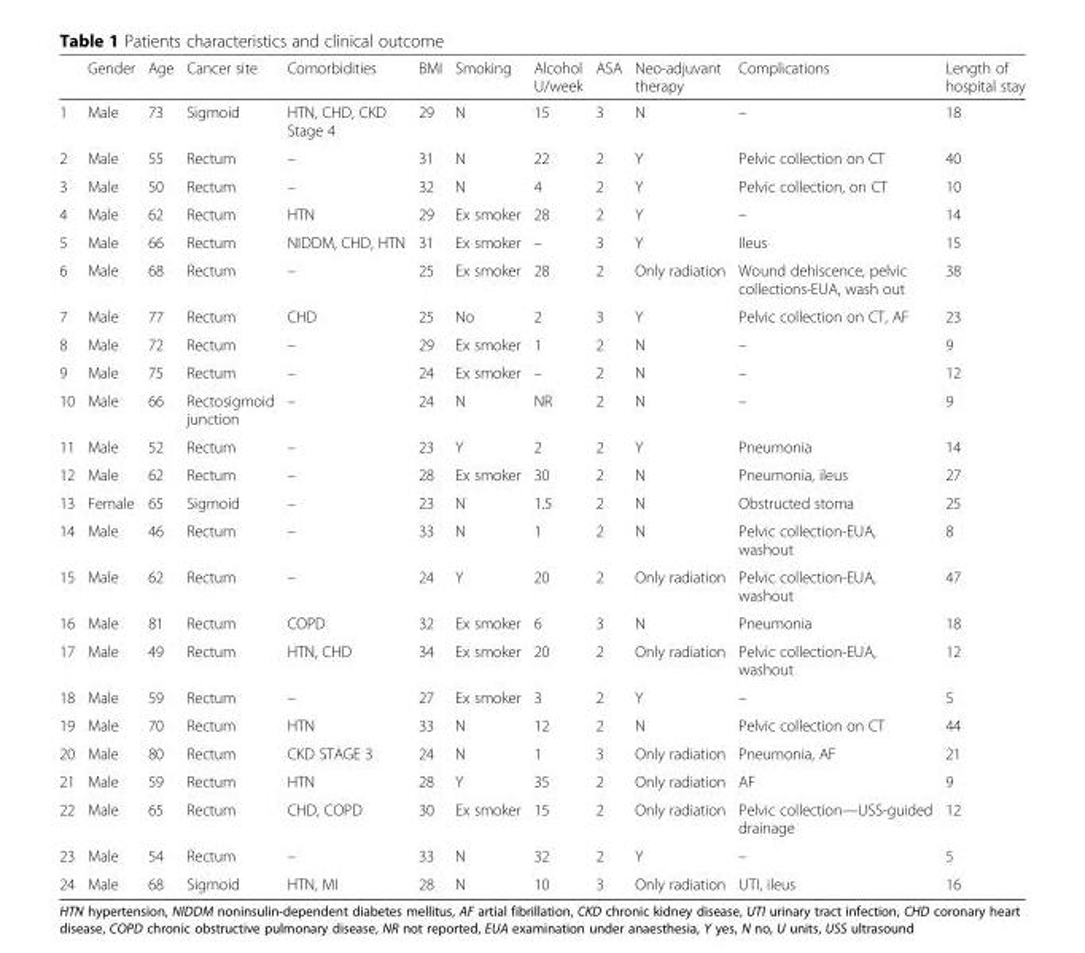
<table><thead><tr><td></td><td>Gender</td><td>Age</td><td>Cancer site</td><td>Comorbidities</td><td>BMI</td><td>Smoking</td><td>Alcohol U/week</td><td>ASA</td><td>Neo-adjuvant therapy</td><td>Complications</td><td>Length of hospital stay</td></tr></thead><tbody><tr><td>1</td><td>Male</td><td>73</td><td>Sigmoid</td><td>HTN, CHD, CKD Stage 4</td><td>29</td><td>N</td><td>15</td><td>3</td><td>N</td><td>–</td><td>18</td></tr><tr><td>2</td><td>Male</td><td>55</td><td>Rectum</td><td>–</td><td>31</td><td>N</td><td>22</td><td>2</td><td>Y</td><td>Pelvic collection on CT</td><td>40</td></tr><tr><td>3</td><td>Male</td><td>50</td><td>Rectum</td><td>–</td><td>32</td><td>N</td><td>4</td><td>2</td><td>Y</td><td>Pelvic collection, on CT</td><td>10</td></tr><tr><td>4</td><td>Male</td><td>62</td><td>Rectum</td><td>HTN</td><td>29</td><td>Ex smoker</td><td>28</td><td>2</td><td>Y</td><td>–</td><td>14</td></tr><tr><td>5</td><td>Male</td><td>66</td><td>Rectum</td><td>NIDDM, CHD, HTN</td><td>31</td><td>Ex smoker</td><td>–</td><td>3</td><td>Y</td><td>Ileus</td><td>15</td></tr><tr><td>6</td><td>Male</td><td>68</td><td>Rectum</td><td>–</td><td>25</td><td>Ex smoker</td><td>28</td><td>2</td><td>Only radiation</td><td>Wound dehiscence, pelvic collections-EUA, wash out</td><td>38</td></tr><tr><td>7</td><td>Male</td><td>77</td><td>Rectum</td><td>CHD</td><td>25</td><td>No</td><td>2</td><td>3</td><td>Y</td><td>Pelvic collection on CT, AF</td><td>23</td></tr><tr><td>8</td><td>Male</td><td>72</td><td>Rectum</td><td>–</td><td>29</td><td>Ex smoker</td><td>1</td><td>2</td><td>N</td><td>–</td><td>9</td></tr><tr><td>9</td><td>Male</td><td>75</td><td>Rectum</td><td>–</td><td>24</td><td>Ex smoker</td><td>–</td><td>2</td><td>N</td><td>–</td><td>12</td></tr><tr><td>10</td><td>Male</td><td>66</td><td>Rectosigmoid junction</td><td>–</td><td>24</td><td>N</td><td>NR</td><td>2</td><td>N</td><td>–</td><td>9</td></tr><tr><td>11</td><td>Male</td><td>52</td><td>Rectum</td><td>–</td><td>23</td><td>Y</td><td>2</td><td>2</td><td>Y</td><td>Pneumonia</td><td>14</td></tr><tr><td>12</td><td>Male</td><td>62</td><td>Rectum</td><td>–</td><td>28</td><td>Ex smoker</td><td>30</td><td>2</td><td>N</td><td>Pneumonia, ileus</td><td>27</td></tr><tr><td>13</td><td>Female</td><td>65</td><td>Sigmoid</td><td>–</td><td>23</td><td>N</td><td>1.5</td><td>2</td><td>N</td><td>Obstructed stoma</td><td>25</td></tr><tr><td>14</td><td>Male</td><td>46</td><td>Rectum</td><td>–</td><td>33</td><td>N</td><td>1</td><td>2</td><td>N</td><td>Pelvic collection-EUA, washout</td><td>8</td></tr><tr><td>15</td><td>Male</td><td>62</td><td>Rectum</td><td>–</td><td>24</td><td>Y</td><td>20</td><td>2</td><td>Only radiation</td><td>Pelvic collection-EUA, washout</td><td>47</td></tr><tr><td>16</td><td>Male</td><td>81</td><td>Rectum</td><td>COPD</td><td>32</td><td>Ex smoker</td><td>6</td><td>3</td><td>N</td><td>Pneumonia</td><td>18</td></tr><tr><td>17</td><td>Male</td><td>49</td><td>Rectum</td><td>HTN, CHD</td><td>34</td><td>Ex smoker</td><td>20</td><td>2</td><td>Only radiation</td><td>Pelvic collection-EUA, washout</td><td>12</td></tr><tr><td>18</td><td>Male</td><td>59</td><td>Rectum</td><td>–</td><td>27</td><td>Ex smoker</td><td>3</td><td>2</td><td>Y</td><td>–</td><td>5</td></tr><tr><td>19</td><td>Male</td><td>70</td><td>Rectum</td><td>HTN</td><td>33</td><td>N</td><td>12</td><td>2</td><td>N</td><td>Pelvic collection on CT</td><td>44</td></tr><tr><td>20</td><td>Male</td><td>80</td><td>Rectum</td><td>CKD STAGE 3</td><td>24</td><td>N</td><td>1</td><td>3</td><td>Only radiation</td><td>Pneumonia, AF</td><td>21</td></tr><tr><td>21</td><td>Male</td><td>59</td><td>Rectum</td><td>HTN</td><td>28</td><td>Y</td><td>35</td><td>2</td><td>Only radiation</td><td>AF</td><td>9</td></tr><tr><td>22</td><td>Male</td><td>65</td><td>Rectum</td><td>CHD, COPD</td><td>30</td><td>Ex smoker</td><td>15</td><td>2</td><td>Only radiation</td><td>Pelvic collection—USS-guided drainage</td><td>12</td></tr><tr><td>23</td><td>Male</td><td>54</td><td>Rectum</td><td>–</td><td>33</td><td>N</td><td>32</td><td>2</td><td>Y</td><td>–</td><td>5</td></tr><tr><td>24</td><td>Male</td><td>68</td><td>Sigmoid</td><td>HTN, MI</td><td>28</td><td>N</td><td>10</td><td>3</td><td>Only radiation</td><td>UTI, ileus</td><td>16</td></tr></tbody></table>